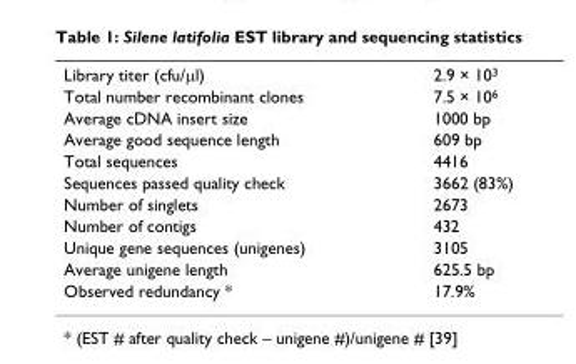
<table><tbody><tr><td>Library titer (cfu/μl)</td><td>2.9 × 10<sup>3</sup></td></tr><tr><td>Total number recombinant clones</td><td>7.5 × 10<sup>6</sup></td></tr><tr><td>Average cDNA insert size</td><td>1000 bp</td></tr><tr><td>Average good sequence length</td><td>609 bp</td></tr><tr><td>Total sequences</td><td>4416</td></tr><tr><td>Sequences passed quality check</td><td>3662 (83%)</td></tr><tr><td>Number of singlets</td><td>2673</td></tr><tr><td>Number of contigs</td><td>432</td></tr><tr><td>Unique gene sequences (unigenes)</td><td>3105</td></tr><tr><td>Average unigene length</td><td>625.5 bp</td></tr><tr><td>Observed redundancy *</td><td>17.9%</td></tr></tbody></table>